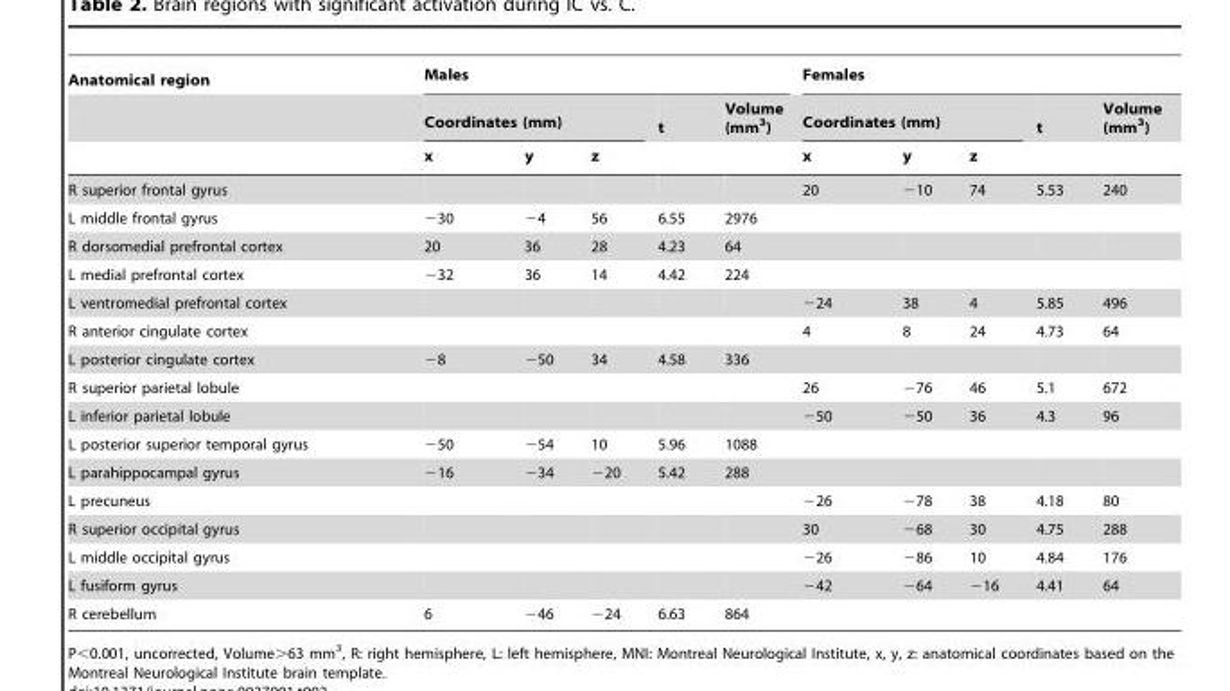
<table><thead><tr><td rowspan="3">Anatomical region</td><td colspan="5">Males</td><td colspan="5">Females</td></tr><tr><td colspan="3">Coordinates (mm)</td><td rowspan="2">t</td><td rowspan="2">Volume (mm<sup>3</sup>)</td><td colspan="3">Coordinates (mm)</td><td rowspan="2">t</td><td rowspan="2">Volume (mm<sup>3</sup>)</td></tr><tr><td>x</td><td>y</td><td>z</td><td>x</td><td>y</td><td>z</td></tr></thead><tbody><tr><td>R superior frontal gyrus</td><td></td><td></td><td></td><td></td><td></td><td>20</td><td>−10</td><td>74</td><td>5.53</td><td>240</td></tr><tr><td>L middle frontal gyrus</td><td>−30</td><td>−4</td><td>56</td><td>6.55</td><td>2976</td><td></td><td></td><td></td><td></td><td></td></tr><tr><td>R dorsomedial prefrontal cortex</td><td>20</td><td>36</td><td>28</td><td>4.23</td><td>64</td><td></td><td></td><td></td><td></td><td></td></tr><tr><td>L medial prefrontal cortex</td><td>−32</td><td>36</td><td>14</td><td>4.42</td><td>224</td><td></td><td></td><td></td><td></td><td></td></tr><tr><td>L ventromedial prefrontal cortex</td><td></td><td></td><td></td><td></td><td></td><td>−24</td><td>38</td><td>4</td><td>5.85</td><td>496</td></tr><tr><td>R anterior cingulate cortex</td><td></td><td></td><td></td><td></td><td></td><td>4</td><td>8</td><td>24</td><td>4.73</td><td>64</td></tr><tr><td>L posterior cingulate cortex</td><td>−8</td><td>−50</td><td>34</td><td>4.58</td><td>336</td><td></td><td></td><td></td><td></td><td></td></tr><tr><td>R superior parietal lobule</td><td></td><td></td><td></td><td></td><td></td><td>26</td><td>−76</td><td>46</td><td>5.1</td><td>672</td></tr><tr><td>L inferior parietal lobule</td><td></td><td></td><td></td><td></td><td></td><td>−50</td><td>−50</td><td>36</td><td>4.3</td><td>96</td></tr><tr><td>L posterior superior temporal gyrus</td><td>−50</td><td>−54</td><td>10</td><td>5.96</td><td>1088</td><td></td><td></td><td></td><td></td><td></td></tr><tr><td>L parahippocampal gyrus</td><td>−16</td><td>−34</td><td>−20</td><td>5.42</td><td>288</td><td></td><td></td><td></td><td></td><td></td></tr><tr><td>L precuneus</td><td></td><td></td><td></td><td></td><td></td><td>−26</td><td>−78</td><td>38</td><td>4.18</td><td>80</td></tr><tr><td>R superior occipital gyrus</td><td></td><td></td><td></td><td></td><td></td><td>30</td><td>−68</td><td>30</td><td>4.75</td><td>288</td></tr><tr><td>L middle occipital gyrus</td><td></td><td></td><td></td><td></td><td></td><td>−26</td><td>−86</td><td>10</td><td>4.84</td><td>176</td></tr><tr><td>L fusiform gyrus</td><td></td><td></td><td></td><td></td><td></td><td>−42</td><td>−64</td><td>−16</td><td>4.41</td><td>64</td></tr><tr><td>R cerebellum</td><td>6</td><td>−46</td><td>−24</td><td>6.63</td><td>864</td><td></td><td></td><td></td><td></td><td></td></tr></tbody></table>